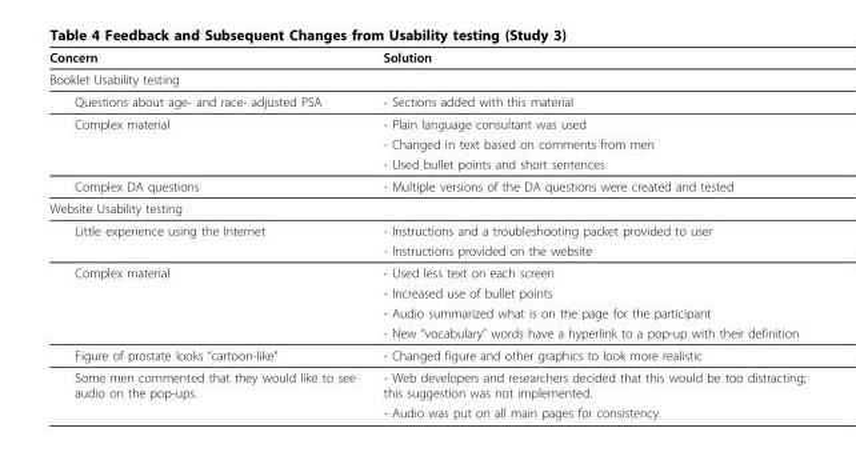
<table><thead><tr><td>Concern</td><td>Solution</td></tr></thead><tbody><tr><td colspan="2">Booklet Usability testing</td></tr><tr><td>Questions about age- and race- adjusted PSA</td><td>- Sections added with this material</td></tr><tr><td rowspan="3">Complex material</td><td>- Plain language consultant was used</td></tr><tr><td>- Changed in text based on comments from men</td></tr><tr><td>- Used bullet points and short sentences</td></tr><tr><td>Complex DA questions</td><td>- Multiple versions of the DA questions were created and tested</td></tr><tr><td colspan="2">Website Usability testing</td></tr><tr><td rowspan="2">Little experience using the Internet</td><td>- Instructions and a troubleshooting packet provided to user</td></tr><tr><td>- Instructions provided on the website</td></tr><tr><td rowspan="4">Complex material</td><td>- Used less text on each screen</td></tr><tr><td>- Increased use of bullet points</td></tr><tr><td>- Audio summarized what is on the page for the participant</td></tr><tr><td>- New “vocabulary” words have a hyperlink to a pop-up with their definition</td></tr><tr><td>Figure of prostate looks “cartoon-like”</td><td>- Changed figure and other graphics to look more realistic</td></tr><tr><td rowspan="2">Some men commented that they would like to see audio on the pop-ups.</td><td>- Web developers and researchers decided that this would be too distracting; this suggestion was not implemented.</td></tr><tr><td>- Audio was put on all main pages for consistency.</td></tr></tbody></table>